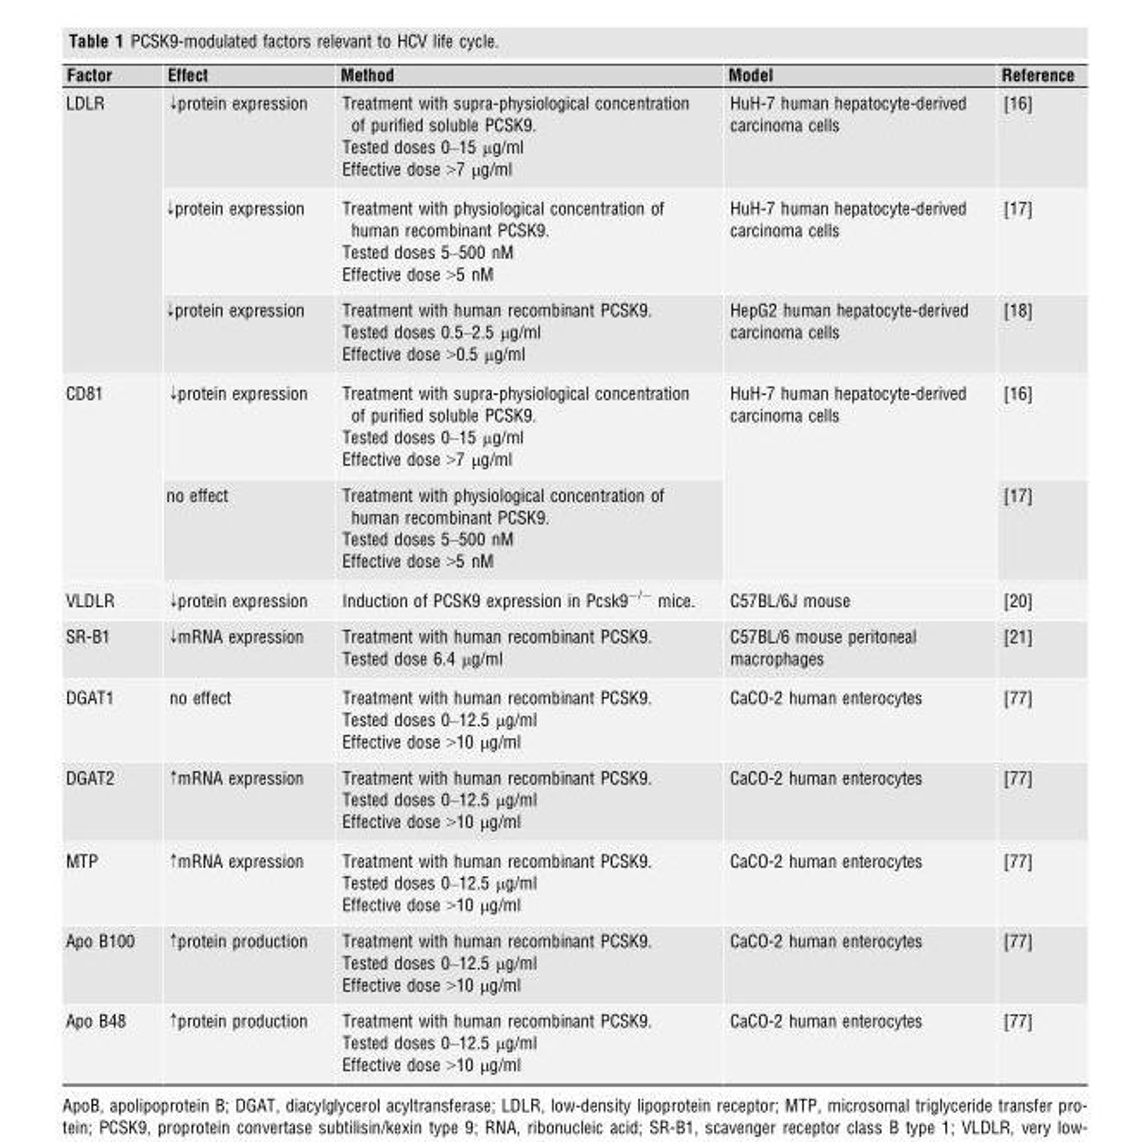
<table><thead><tr><td>Factor</td><td>Effect</td><td>Method</td><td>Model</td><td>Reference</td></tr></thead><tbody><tr><td rowspan="3">LDLR</td><td>↓protein expression</td><td>Treatment with supra-physiological concentration of purified soluble PCSK9. Tested doses 0–15 μg/ml Effective dose &gt;7 μg/ml</td><td>HuH-7 human hepatocyte-derived carcinoma cells</td><td>[16]</td></tr><tr><td>↓protein expression</td><td>Treatment with physiological concentration of human recombinant PCSK9. Tested doses 5–500 nM Effective dose &gt;5 nM</td><td>HuH-7 human hepatocyte-derived carcinoma cells</td><td>[17]</td></tr><tr><td>↓protein expression</td><td>Treatment with human recombinant PCSK9. Tested doses 0.5–2.5 μg/ml Effective dose &gt;0.5 μg/ml</td><td>HepG2 human hepatocyte-derived carcinoma cells</td><td>[18]</td></tr><tr><td rowspan="2">CD81</td><td>↓protein expression</td><td>Treatment with supra-physiological concentration of purified soluble PCSK9. Tested doses 0–15 μg/ml Effective dose &gt;7 μg/ml</td><td rowspan="2">HuH-7 human hepatocyte-derived carcinoma cells</td><td>[16]</td></tr><tr><td>no effect</td><td>Treatment with physiological concentration of human recombinant PCSK9. Tested doses 5–500 nM Effective dose &gt;5 nM</td><td>[17]</td></tr><tr><td>VLDLR</td><td>↓protein expression</td><td>Induction of PCSK9 expression in Pcsk9<sup>−/−</sup> mice.</td><td>C57BL/6J mouse</td><td>[20]</td></tr><tr><td>SR-B1</td><td>↓mRNA expression</td><td>Treatment with human recombinant PCSK9. Tested dose 6.4 μg/ml</td><td>C57BL/6 mouse peritoneal macrophages</td><td>[21]</td></tr><tr><td>DGAT1</td><td>no effect</td><td>Treatment with human recombinant PCSK9. Tested doses 0–12.5 μg/ml Effective dose &gt;10 μg/ml</td><td>CaCO-2 human enterocytes</td><td>[77]</td></tr><tr><td>DGAT2</td><td>↑mRNA expression</td><td>Treatment with human recombinant PCSK9. Tested doses 0–12.5 μg/ml Effective dose &gt;10 μg/ml</td><td>CaCO-2 human enterocytes</td><td>[77]</td></tr><tr><td>MTP</td><td>↑mRNA expression</td><td>Treatment with human recombinant PCSK9. Tested doses 0–12.5 μg/ml Effective dose &gt;10 μg/ml</td><td>CaCO-2 human enterocytes</td><td>[77]</td></tr><tr><td>Apo B100</td><td>↑protein production</td><td>Treatment with human recombinant PCSK9. Tested doses 0–12.5 μg/ml Effective dose &gt;10 μg/ml</td><td>CaCO-2 human enterocytes</td><td>[77]</td></tr><tr><td>Apo B48</td><td>↑protein production</td><td>Treatment with human recombinant PCSK9. Tested doses 0–12.5 μg/ml Effective dose &gt;10 μg/ml</td><td>CaCO-2 human enterocytes</td><td>[77]</td></tr></tbody></table>